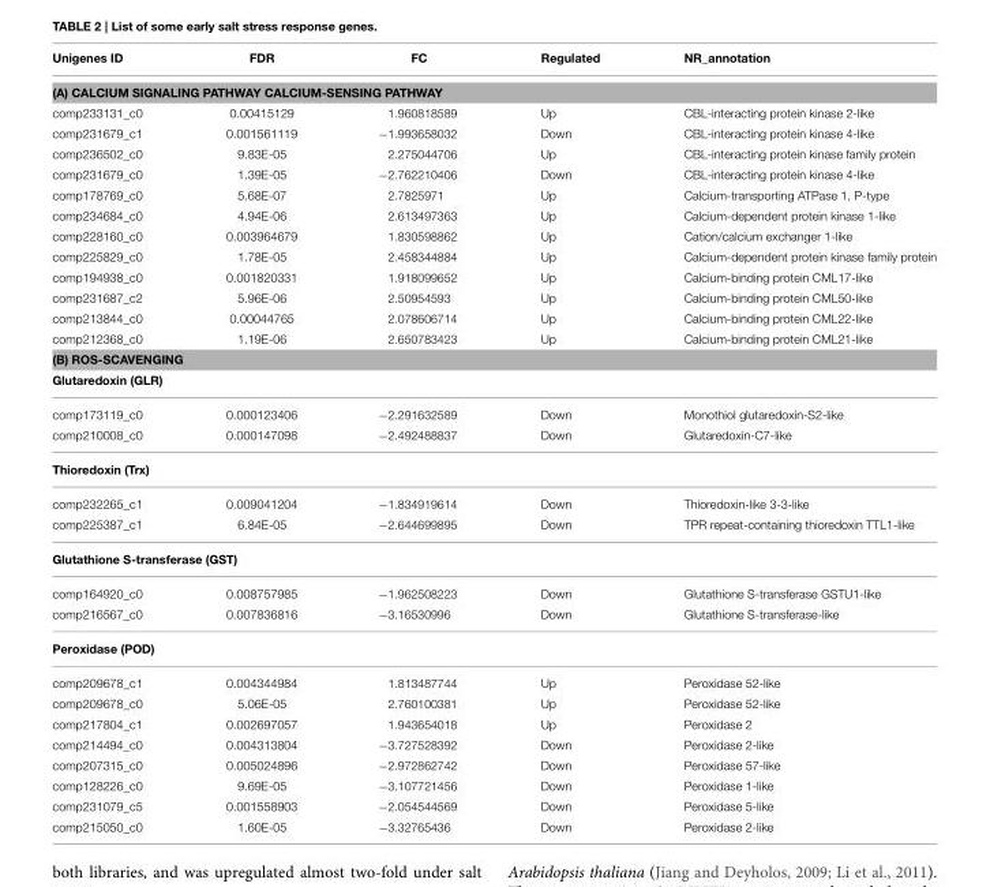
<table><thead><tr><td>Unigenes ID</td><td>FDR</td><td>FC</td><td>Regulated</td><td>NR_annotation</td></tr></thead><tbody><tr><td colspan="5">(A) CALCIUM SIGNALING PATHWAY CALCIUM-SENSING PATHWAY</td></tr><tr><td>comp233131_c0</td><td>0.00415129</td><td>1.960818589</td><td>Up</td><td>CBL-interacting protein kinase 2-like</td></tr><tr><td>comp231679_c1</td><td>0.001561119</td><td>−1.993658032</td><td>Down</td><td>CBL-interacting protein kinase 4-like</td></tr><tr><td>comp236502_c0</td><td>9.83E-05</td><td>2.275044706</td><td>Up</td><td>CBL-interacting protein kinase family protein</td></tr><tr><td>comp231679_c0</td><td>1.39E-05</td><td>−2.762210406</td><td>Down</td><td>CBL-interacting protein kinase 4-like</td></tr><tr><td>comp178769_c0</td><td>5.68E-07</td><td>2.7825971</td><td>Up</td><td>Calcium-transporting ATPase 1, P-type</td></tr><tr><td>comp234684_c0</td><td>4.94E-06</td><td>2.613497363</td><td>Up</td><td>Calcium-dependent protein kinase 1-like</td></tr><tr><td>comp228160_c0</td><td>0.003964679</td><td>1.830598862</td><td>Up</td><td>Cation/calcium exchanger 1-like</td></tr><tr><td>comp225829_c0</td><td>1.78E-05</td><td>2.458344884</td><td>Up</td><td>Calcium-dependent protein kinase family protein</td></tr><tr><td>comp194938_c0</td><td>0.001820331</td><td>1.918099652</td><td>Up</td><td>Calcium-binding protein CML17-like</td></tr><tr><td>comp231687_c2</td><td>5.96E-06</td><td>2.50954593</td><td>Up</td><td>Calcium-binding protein CML50-like</td></tr><tr><td>comp213844_c0</td><td>0.00044765</td><td>2.078606714</td><td>Up</td><td>Calcium-binding protein CML22-like</td></tr><tr><td>comp212368_c0</td><td>1.19E-06</td><td>2.650783423</td><td>Up</td><td>Calcium-binding protein CML21-like</td></tr><tr><td colspan="5">(B) ROS-SCAVENGING</td></tr><tr><td colspan="5">Glutaredoxin (GLR)</td></tr><tr><td>comp173119_c0</td><td>0.000123406</td><td>−2.291632589</td><td>Down</td><td>Monothiol glutaredoxin-S2-like</td></tr><tr><td>comp210008_c0</td><td>0.000147098</td><td>−2.492488837</td><td>Down</td><td>Glutaredoxin-C7-like</td></tr><tr><td colspan="5">Thioredoxin (Trx)</td></tr><tr><td>comp232265_c1</td><td>0.009041204</td><td>−1.834919614</td><td>Down</td><td>Thioredoxin-like 3-3-like</td></tr><tr><td>comp225387_c1</td><td>6.84E-05</td><td>−2.644699895</td><td>Down</td><td>TPR repeat-containing thioredoxin TTL1-like</td></tr><tr><td colspan="5">Glutathione S-transferase (GST)</td></tr><tr><td>comp164920_c0</td><td>0.008757985</td><td>−1.962508223</td><td>Down</td><td>Glutathione S-transferase GSTU1-like</td></tr><tr><td>comp216567_c0</td><td>0.007836816</td><td>−3.16530996</td><td>Down</td><td>Glutathione S-transferase-like</td></tr><tr><td colspan="5">Peroxidase (POD)</td></tr><tr><td>comp209678_c1</td><td>0.004344984</td><td>1.813487744</td><td>Up</td><td>Peroxidase 52-like</td></tr><tr><td>comp209678_c0</td><td>5.06E-05</td><td>2.760100381</td><td>Up</td><td>Peroxidase 52-like</td></tr><tr><td>comp217804_c1</td><td>0.002697057</td><td>1.943654018</td><td>Up</td><td>Peroxidase 2</td></tr><tr><td>comp214494_c0</td><td>0.004313804</td><td>−3.727528392</td><td>Down</td><td>Peroxidase 2-like</td></tr><tr><td>comp207315_c0</td><td>0.005024896</td><td>−2.972862742</td><td>Down</td><td>Peroxidase 57-like</td></tr><tr><td>comp128226_c0</td><td>9.69E-05</td><td>−3.107721456</td><td>Down</td><td>Peroxidase 1-like</td></tr><tr><td>comp231079_c5</td><td>0.001558903</td><td>−2.054544569</td><td>Down</td><td>Peroxidase 5-like</td></tr><tr><td>comp215050_c0</td><td>1.60E-05</td><td>−3.32765436</td><td>Down</td><td>Peroxidase 2-like</td></tr></tbody></table>